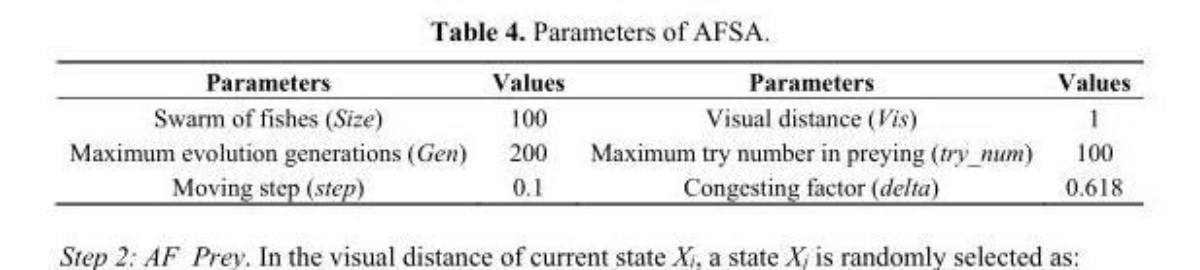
<table><thead><tr><td>Parameters</td><td>Values</td><td>Parameters</td><td>Values</td></tr></thead><tbody><tr><td>Swarm of fishes (Size)</td><td>100</td><td>Visual distance (Vis)</td><td>1</td></tr><tr><td>Maximum evolution generations (Gen)</td><td>200</td><td>Maximum try number in preying (try_num)</td><td>100</td></tr><tr><td>Moving step (step)</td><td>0.1</td><td>Congesting factor (delta)</td><td>0.618</td></tr></tbody></table>